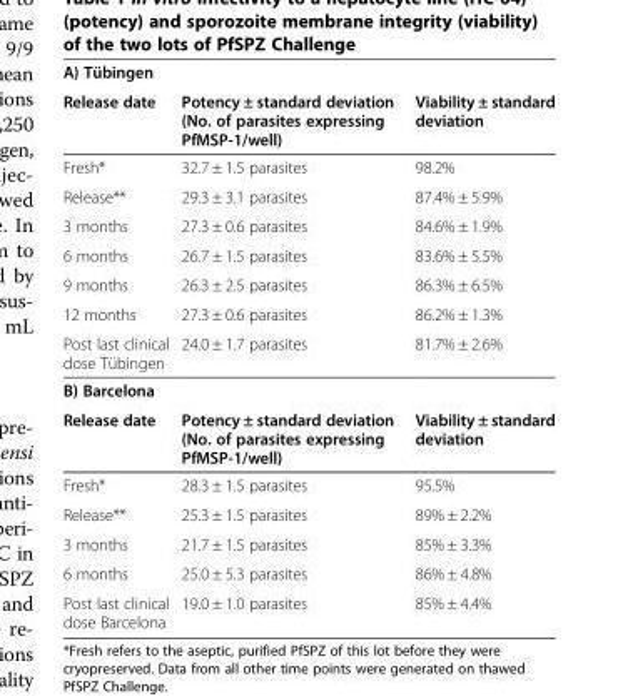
<table><tbody><tr><td colspan="3">A) Tübingen</td></tr><tr><td>Release date</td><td>Potency ± standard deviation (No. of parasites expressing PfMSP-1/well)</td><td>Viability ± standard deviation</td></tr><tr><td>Fresh*</td><td>32.7 ± 1.5 parasites</td><td>98.2%</td></tr><tr><td>Release**</td><td>29.3 ± 3.1 parasites</td><td>87.4% ± 5.9%</td></tr><tr><td>3 months</td><td>27.3 ± 0.6 parasites</td><td>84.6% ± 1.9%</td></tr><tr><td>6 months</td><td>26.7 ± 1.5 parasites</td><td>83.6% ± 5.5%</td></tr><tr><td>9 months</td><td>26.3 ± 2.5 parasites</td><td>86.3% ± 6.5%</td></tr><tr><td>12 months</td><td>27.3 ± 0.6 parasites</td><td>86.2% ± 1.3%</td></tr><tr><td>Post last clinical dose Tübingen</td><td>24.0 ± 1.7 parasites</td><td>81.7% ± 2.6%</td></tr><tr><td colspan="3">B) Barcelona</td></tr><tr><td>Release date</td><td>Potency ± standard deviation (No. of parasites expressing PfMSP-1/well)</td><td>Viability ± standard deviation</td></tr><tr><td>Fresh*</td><td>28.3 ± 1.5 parasites</td><td>95.5%</td></tr><tr><td>Release**</td><td>25.3 ± 1.5 parasites</td><td>89% ± 2.2%</td></tr><tr><td>3 months</td><td>21.7 ± 1.5 parasites</td><td>85% ± 3.3%</td></tr><tr><td>6 months</td><td>25.0 ± 5.3 parasites</td><td>86% ± 4.8%</td></tr><tr><td>Post last clinical dose Barcelona</td><td>19.0 ± 1.0 parasites</td><td>85% ± 4.4%</td></tr></tbody></table>